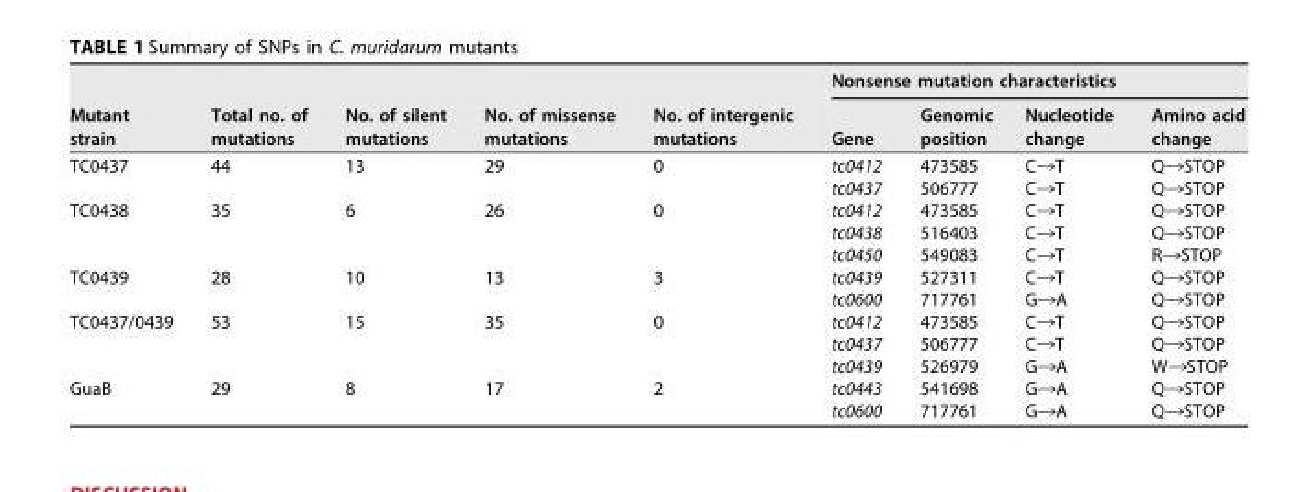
<table><thead><tr><td rowspan="2">Mutant strain</td><td rowspan="2">Total no. of mutations</td><td rowspan="2">No. of silent mutations</td><td rowspan="2">No. of missense mutations</td><td rowspan="2">No. of intergenic mutations</td><td colspan="4">Nonsense mutation characteristics</td></tr><tr><td>Gene</td><td>Genomic position</td><td>Nucleotide change</td><td>Amino acid change</td></tr></thead><tbody><tr><td rowspan="2">TC0437</td><td rowspan="2">44</td><td rowspan="2">13</td><td rowspan="2">29</td><td rowspan="2">0</td><td>tc0412</td><td>473585</td><td>C→T</td><td>Q→STOP</td></tr><tr><td>tc0437</td><td>506777</td><td>C→T</td><td>Q→STOP</td></tr><tr><td rowspan="3">TC0438</td><td rowspan="3">35</td><td rowspan="3">6</td><td rowspan="3">26</td><td rowspan="3">0</td><td>tc0412</td><td>473585</td><td>C→T</td><td>Q→STOP</td></tr><tr><td>tc0438</td><td>516403</td><td>C→T</td><td>Q→STOP</td></tr><tr><td>tc0450</td><td>549083</td><td>C→T</td><td>R→STOP</td></tr><tr><td rowspan="2">TC0439</td><td rowspan="2">28</td><td rowspan="2">10</td><td rowspan="2">13</td><td rowspan="2">3</td><td>tc0439</td><td>527311</td><td>C→T</td><td>Q→STOP</td></tr><tr><td>tc0600</td><td>717761</td><td>G→A</td><td>Q→STOP</td></tr><tr><td rowspan="3">TC0437/0439</td><td rowspan="3">53</td><td rowspan="3">15</td><td rowspan="3">35</td><td rowspan="3">0</td><td>tc0412</td><td>473585</td><td>C→T</td><td>Q→STOP</td></tr><tr><td>tc0437</td><td>506777</td><td>C→T</td><td>Q→STOP</td></tr><tr><td>tc0439</td><td>526979</td><td>G→A</td><td>W→STOP</td></tr><tr><td rowspan="2">GuaB</td><td rowspan="2">29</td><td rowspan="2">8</td><td rowspan="2">17</td><td rowspan="2">2</td><td>tc0443</td><td>541698</td><td>G→A</td><td>Q→STOP</td></tr><tr><td>tc0600</td><td>717761</td><td>G→A</td><td>Q→STOP</td></tr></tbody></table>